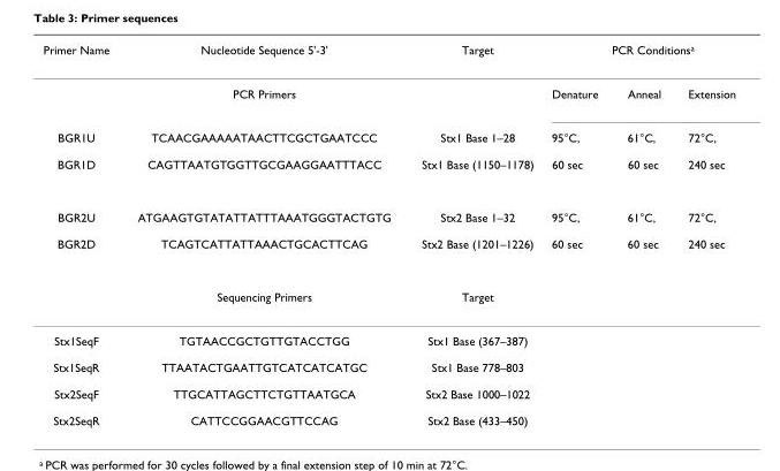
<table><thead><tr><td rowspan="2">Primer Name</td><td rowspan="2">Nucleotide Sequence 5&#x27;-3&#x27; PCR Primers</td><td rowspan="2">Target</td><td colspan="3">PCR Conditions<sup>a</sup></td></tr><tr><td>Denature</td><td>Anneal</td><td>Extension</td></tr></thead><tbody><tr><td>BGR1U</td><td>TCAACGAAAAATAACTTCGCTGAATCCC</td><td>Stx1 Base 1–28</td><td>95°C,</td><td>61°C,</td><td>72°C,</td></tr><tr><td>BGR1D</td><td>CAGTTAATGTGGTTGCGAAGGAATTTACC</td><td>Stx1 Base (1150–1178)</td><td>60 sec</td><td>60 sec</td><td>240 sec</td></tr><tr><td>BGR2U</td><td>ATGAAGTGTATATTATTTAAATGGGTACTGTG</td><td>Stx2 Base 1–32</td><td>95°C,</td><td>61°C,</td><td>72°C,</td></tr><tr><td rowspan="2">BGR2D</td><td>TCAGTCATTATTAAACTGCACTTCAG</td><td>Stx2 Base (1201–1226)</td><td>60 sec</td><td>60 sec</td><td>240 sec</td></tr><tr><td>Sequencing Primers</td><td>Target</td><td></td><td></td><td></td></tr><tr><td>Stx1SeqF</td><td>TGTAACCGCTGTTGTACCTGG</td><td>Stx1 Base (367–387)</td><td></td><td></td><td></td></tr><tr><td>Stx1SeqR</td><td>TTAATACTGAATTGTCATCATCATGC</td><td>Stx1 Base 778–803</td><td></td><td></td><td></td></tr><tr><td>Stx2SeqF</td><td>TTGCATTAGCTTCTGTTAATGCA</td><td>Stx2 Base 1000–1022</td><td></td><td></td><td></td></tr><tr><td>Stx2SeqR</td><td>CATTCCGGAACGTTCCAG</td><td>Stx2 Base (433–450)</td><td></td><td></td><td></td></tr></tbody></table>